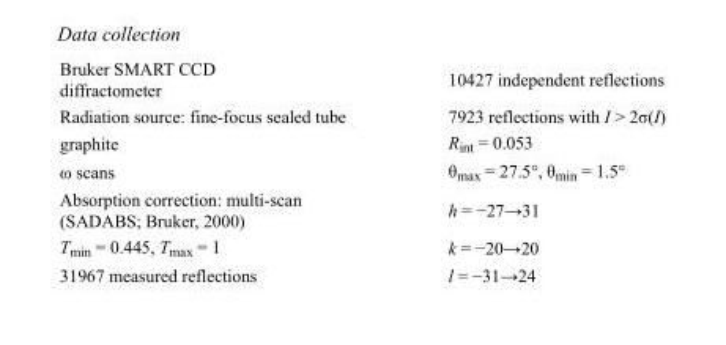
<table><tbody><tr><td>Bruker SMART CCD diffractometer</td><td>10427 independent reflections</td></tr><tr><td>Radiation source: fine-focus sealed tube</td><td>7923 reflections with I &gt; 2σ(I)</td></tr><tr><td>graphite</td><td>R<sub>int</sub> = 0.053</td></tr><tr><td>ω scans</td><td>θ<sub>max</sub> = 27.5°, θ<sub>min</sub> = 1.5°</td></tr><tr><td>Absorption correction: multi-scan (SADABS; Bruker, 2000)</td><td>h = −27→31</td></tr><tr><td>T<sub>min</sub> = 0.445, T<sub>max</sub> = 1</td><td>k = −20→20</td></tr><tr><td>31967 measured reflections</td><td>l = −31→24</td></tr></tbody></table>